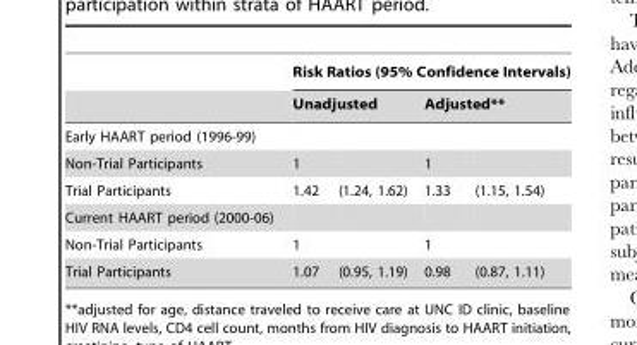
<table><thead><tr><td rowspan="3">Early HAART period (1996-99)</td><td colspan="4">Risk Ratios (95% Confidence Intervals)</td></tr><tr><td colspan="2">Unadjusted</td><td colspan="2">Adjusted**</td></tr><tr><td></td><td></td><td></td><td></td></tr></thead><tbody><tr><td>Non-Trial Participants</td><td>1</td><td></td><td>1</td><td></td></tr><tr><td>Trial Participants</td><td>1.42</td><td>(1.24, 1.62)</td><td>1.33</td><td>(1.15, 1.54)</td></tr><tr><td colspan="5">Current HAART period (2000-06)</td></tr><tr><td>Non-Trial Participants</td><td>1</td><td></td><td>1</td><td></td></tr><tr><td>Trial Participants</td><td>1.07</td><td>(0.95, 1.19)</td><td>0.98</td><td>(0.87, 1.11)</td></tr></tbody></table>